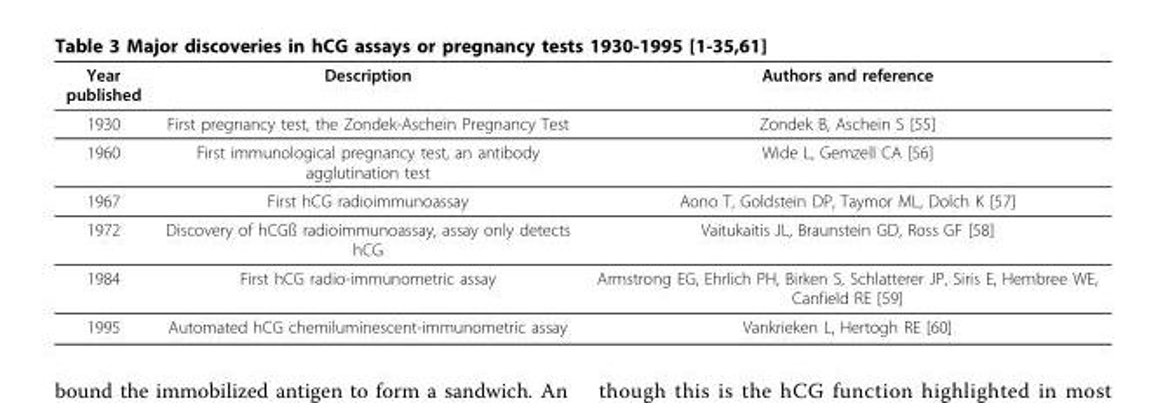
<table><thead><tr><td>Year published</td><td>Description</td><td>Authors and reference</td></tr></thead><tbody><tr><td>1930</td><td>First pregnancy test, the Zondek-Aschein Pregnancy Test</td><td>Zondek B, Aschein S [55]</td></tr><tr><td>1960</td><td>First immunological pregnancy test, an antibody agglutination test</td><td>Wide L, Gemzell CA [56]</td></tr><tr><td>1967</td><td>First hCG radioimmunoassay</td><td>Aono T, Goldstein DP, Taymor ML, Dolch K [57]</td></tr><tr><td>1972</td><td>Discovery of hCGß radioimmunoassay, assay only detects hCG</td><td>Vaitukaitis JL, Braunstein GD, Ross GF [58]</td></tr><tr><td>1984</td><td>First hCG radio-immunometric assay</td><td>Armstrong EG, Ehrlich PH, Birken S, Schlatterer JP, Siris E, Hembree WE, Canfield RE [59]</td></tr><tr><td>1995</td><td>Automated hCG chemiluminescent-immunometric assay</td><td>Vankrieken L, Hertogh RE [60]</td></tr></tbody></table>